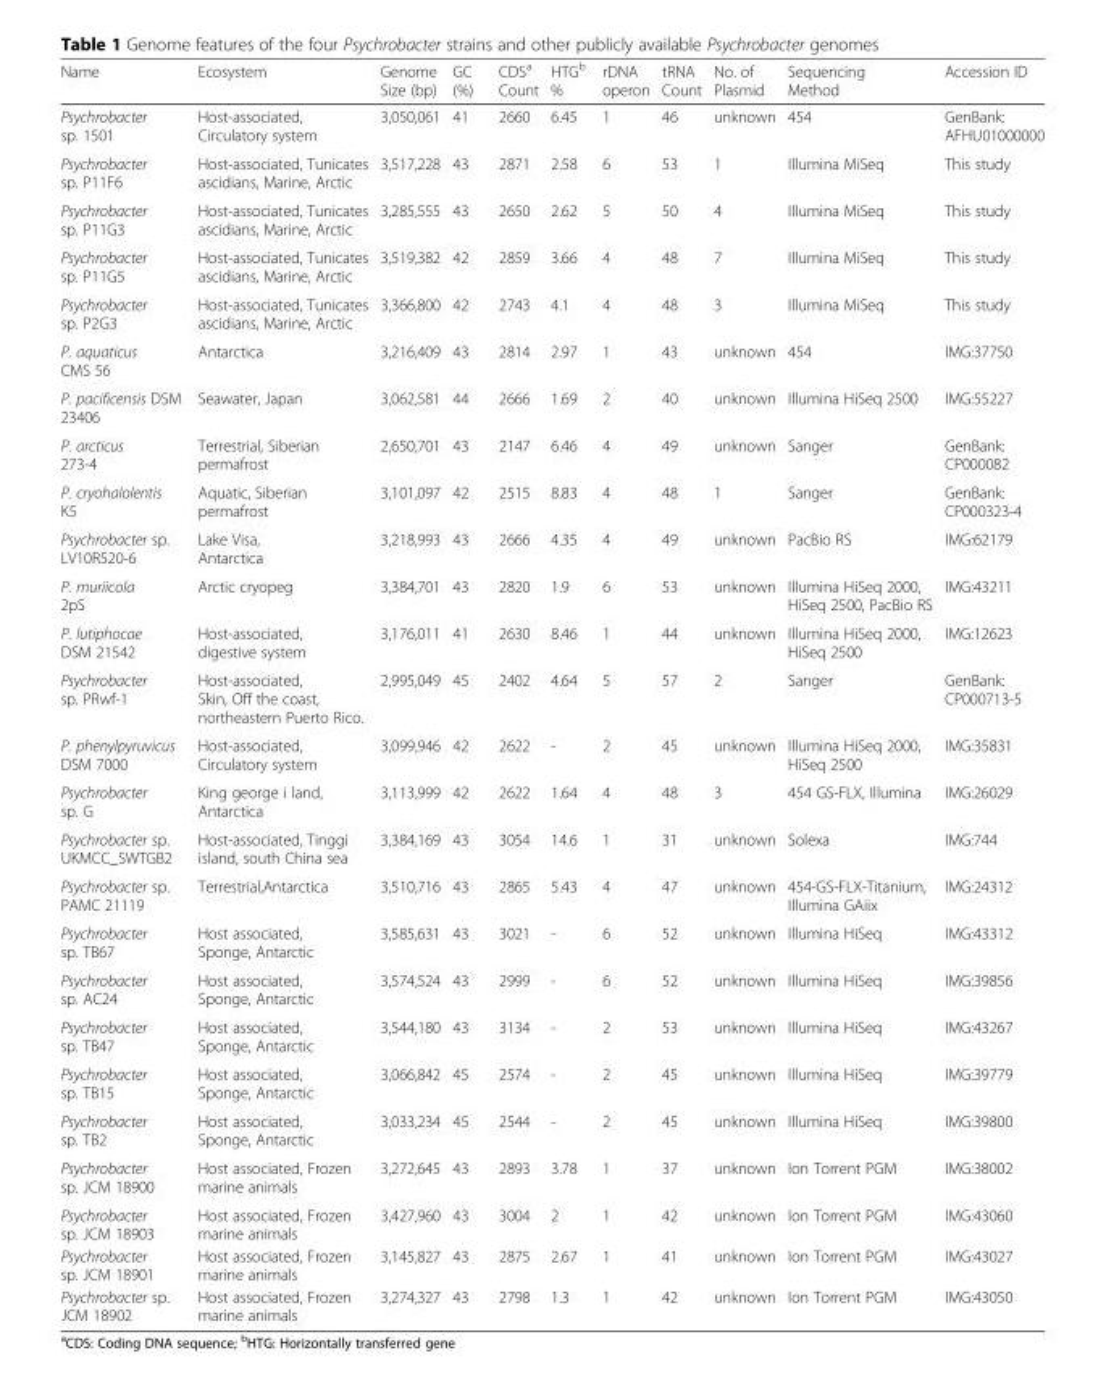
<table><thead><tr><td>Name</td><td>Ecosystem</td><td>Genome Size (bp)</td><td>GC (%)</td><td>CDS<sup>a</sup> Count</td><td>HTG<sup>b</sup> %</td><td>rDNA operon</td><td>tRNA Count</td><td>No. of Plasmid</td><td>Sequencing Method</td><td>Accession ID</td></tr></thead><tbody><tr><td>Psychrobacter sp. 1501</td><td>Host-associated, Circulatory system</td><td>3,050,061</td><td>41</td><td>2660</td><td>6.45</td><td>1</td><td>46</td><td>unknown</td><td>454</td><td>GenBank: AFHU01000000</td></tr><tr><td>Psychrobacter sp. P11F6</td><td>Host-associated, Tunicates ascidians, Marine, Arctic</td><td>3,517,228</td><td>43</td><td>2871</td><td>2.58</td><td>6</td><td>53</td><td>1</td><td>Illumina MiSeq</td><td>This study</td></tr><tr><td>Psychrobacter sp. P11G3</td><td>Host-associated, Tunicates ascidians, Marine, Arctic</td><td>3,285,555</td><td>43</td><td>2650</td><td>2.62</td><td>5</td><td>50</td><td>4</td><td>Illumina MiSeq</td><td>This study</td></tr><tr><td>Psychrobacter sp. P11G5</td><td>Host-associated, Tunicates ascidians, Marine, Arctic</td><td>3,519,382</td><td>42</td><td>2859</td><td>3.66</td><td>4</td><td>48</td><td>7</td><td>Illumina MiSeq</td><td>This study</td></tr><tr><td>Psychrobacter sp. P2G3</td><td>Host-associated, Tunicates ascidians, Marine, Arctic</td><td>3,366,800</td><td>42</td><td>2743</td><td>4.1</td><td>4</td><td>48</td><td>3</td><td>Illumina MiSeq</td><td>This study</td></tr><tr><td>P. aquaticus CMS 56</td><td>Antarctica</td><td>3,216,409</td><td>43</td><td>2814</td><td>2.97</td><td>1</td><td>43</td><td>unknown</td><td>454</td><td>IMG:37750</td></tr><tr><td>P. pacificensis DSM 23406</td><td>Seawater, Japan</td><td>3,062,581</td><td>44</td><td>2666</td><td>1.69</td><td>2</td><td>40</td><td>unknown</td><td>Illumina HiSeq 2500</td><td>IMG:55227</td></tr><tr><td>P. arcticus 273-4</td><td>Terrestrial, Siberian permafrost</td><td>2,650,701</td><td>43</td><td>2147</td><td>6.46</td><td>4</td><td>49</td><td>unknown</td><td>Sanger</td><td>GenBank: CP000082</td></tr><tr><td>P. cryohalolentis K5</td><td>Aquatic, Siberian permafrost</td><td>3,101,097</td><td>42</td><td>2515</td><td>8.83</td><td>4</td><td>48</td><td>1</td><td>Sanger</td><td>GenBank: CP000323-4</td></tr><tr><td>Psychrobacter sp. LV10R520-6</td><td>Lake Visa, Antarctica</td><td>3,218,993</td><td>43</td><td>2666</td><td>4.35</td><td>4</td><td>49</td><td>unknown</td><td>PacBio RS</td><td>IMG:62179</td></tr><tr><td>P. muriicola 2pS</td><td>Arctic cryopeg</td><td>3,384,701</td><td>43</td><td>2820</td><td>1.9</td><td>6</td><td>53</td><td>unknown</td><td>Illumina HiSeq 2000, HiSeq 2500, PacBio RS</td><td>IMG:43211</td></tr><tr><td>P. lutiphocae DSM 21542</td><td>Host-associated, digestive system</td><td>3,176,011</td><td>41</td><td>2630</td><td>8.46</td><td>1</td><td>44</td><td>unknown</td><td>Illumina HiSeq 2000, HiSeq 2500</td><td>IMG:12623</td></tr><tr><td>Psychrobacter sp. PRwf-1</td><td>Host-associated, Skin, Off the coast, northeastern Puerto Rico.</td><td>2,995,049</td><td>45</td><td>2402</td><td>4.64</td><td>5</td><td>57</td><td>2</td><td>Sanger</td><td>GenBank: CP000713-5</td></tr><tr><td>P. phenylpyruvicus DSM 7000</td><td>Host-associated, Circulatory system</td><td>3,099,946</td><td>42</td><td>2622</td><td>-</td><td>2</td><td>45</td><td>unknown</td><td>Illumina HiSeq 2000, HiSeq 2500</td><td>IMG:35831</td></tr><tr><td>Psychrobacter sp. G</td><td>King george i land, Antarctica</td><td>3,113,999</td><td>42</td><td>2622</td><td>1.64</td><td>4</td><td>48</td><td>3</td><td>454 GS-FLX, Illumina</td><td>IMG:26029</td></tr><tr><td>Psychrobacter sp. UKMCC_SWTGB2</td><td>Host-associated, Tinggi island, south China sea</td><td>3,384,169</td><td>43</td><td>3054</td><td>14.6</td><td>1</td><td>31</td><td>unknown</td><td>Solexa</td><td>IMG:744</td></tr><tr><td>Psychrobacter sp. PAMC 21119</td><td>Terrestrial,Antarctica</td><td>3,510,716</td><td>43</td><td>2865</td><td>5.43</td><td>4</td><td>47</td><td>unknown</td><td>454-GS-FLX-Titanium, Illumina GAiix</td><td>IMG:24312</td></tr><tr><td>Psychrobacter sp. TB67</td><td>Host associated, Sponge, Antarctic</td><td>3,585,631</td><td>43</td><td>3021</td><td>-</td><td>6</td><td>52</td><td>unknown</td><td>Illumina HiSeq</td><td>IMG:43312</td></tr><tr><td>Psychrobacter sp. AC24</td><td>Host associated, Sponge, Antarctic</td><td>3,574,524</td><td>43</td><td>2999</td><td>-</td><td>6</td><td>52</td><td>unknown</td><td>Illumina HiSeq</td><td>IMG:39856</td></tr><tr><td>Psychrobacter sp. TB47</td><td>Host associated, Sponge, Antarctic</td><td>3,544,180</td><td>43</td><td>3134</td><td>-</td><td>2</td><td>53</td><td>unknown</td><td>Illumina HiSeq</td><td>IMG:43267</td></tr><tr><td>Psychrobacter sp. TB15</td><td>Host associated, Sponge, Antarctic</td><td>3,066,842</td><td>45</td><td>2574</td><td>-</td><td>2</td><td>45</td><td>unknown</td><td>Illumina HiSeq</td><td>IMG:39779</td></tr><tr><td>Psychrobacter sp. TB2</td><td>Host associated, Sponge, Antarctic</td><td>3,033,234</td><td>45</td><td>2544</td><td>-</td><td>2</td><td>45</td><td>unknown</td><td>Illumina HiSeq</td><td>IMG:39800</td></tr><tr><td>Psychrobacter sp. JCM 18900</td><td>Host associated, Frozen marine animals</td><td>3,272,645</td><td>43</td><td>2893</td><td>3.78</td><td>1</td><td>37</td><td>unknown</td><td>Ion Torrent PGM</td><td>IMG:38002</td></tr><tr><td>Psychrobacter sp. JCM 18903</td><td>Host associated, Frozen marine animals</td><td>3,427,960</td><td>43</td><td>3004</td><td>2</td><td>1</td><td>42</td><td>unknown</td><td>Ion Torrent PGM</td><td>IMG:43060</td></tr><tr><td>Psychrobacter sp. JCM 18901</td><td>Host associated, Frozen marine animals</td><td>3,145,827</td><td>43</td><td>2875</td><td>2.67</td><td>1</td><td>41</td><td>unknown</td><td>Ion Torrent PGM</td><td>IMG:43027</td></tr><tr><td>Psychrobacter sp. JCM 18902</td><td>Host associated, Frozen marine animals</td><td>3,274,327</td><td>43</td><td>2798</td><td>1.3</td><td>1</td><td>42</td><td>unknown</td><td>Ion Torrent PGM</td><td>IMG:43050</td></tr></tbody></table>